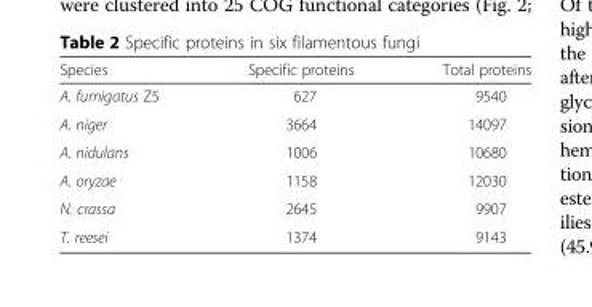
<table><thead><tr><td>Species</td><td>Specific proteins</td><td>Total proteins</td></tr></thead><tbody><tr><td>A. fumigatus Z5</td><td>627</td><td>9540</td></tr><tr><td>A. niger</td><td>3664</td><td>14097</td></tr><tr><td>A. nidulans</td><td>1006</td><td>10680</td></tr><tr><td>A. oryzae</td><td>1158</td><td>12030</td></tr><tr><td>N. crassa</td><td>2645</td><td>9907</td></tr><tr><td>T. reesei</td><td>1374</td><td>9143</td></tr></tbody></table>